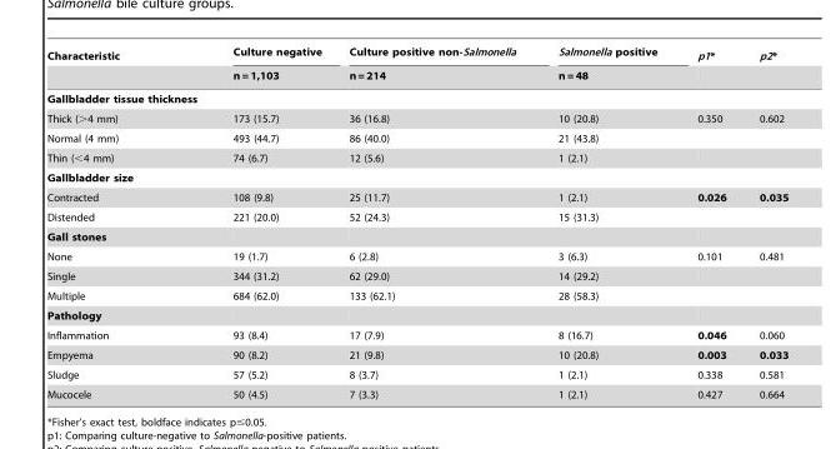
<table><thead><tr><td rowspan="2">Characteristic</td><td rowspan="2">Culture negative n = 1,103</td><td rowspan="2">Culture positive non-Salmonella n = 214</td><td rowspan="2">Salmonella positive n = 48</td><td rowspan="2">p1*</td><td rowspan="2">p2*</td></tr><tr></tr></thead><tbody><tr><td colspan="6">Gallbladder tissue thickness</td></tr><tr><td>Thick (&gt;4 mm)</td><td>173 (15.7)</td><td>36 (16.8)</td><td>10 (20.8)</td><td>0.350</td><td>0.602</td></tr><tr><td>Normal (4 mm)</td><td>493 (44.7)</td><td>86 (40.0)</td><td>21 (43.8)</td><td></td><td></td></tr><tr><td>Thin (&lt;4 mm)</td><td>74 (6.7)</td><td>12 (5.6)</td><td>1 (2.1)</td><td></td><td></td></tr><tr><td colspan="6">Gallbladder size</td></tr><tr><td>Contracted</td><td>108 (9.8)</td><td>25 (11.7)</td><td>1 (2.1)</td><td>0.026</td><td>0.035</td></tr><tr><td>Distended</td><td>221 (20.0)</td><td>52 (24.3)</td><td>15 (31.3)</td><td></td><td></td></tr><tr><td colspan="6">Gall stones</td></tr><tr><td>None</td><td>19 (1.7)</td><td>6 (2.8)</td><td>3 (6.3)</td><td>0.101</td><td>0.481</td></tr><tr><td>Single</td><td>344 (31.2)</td><td>62 (29.0)</td><td>14 (29.2)</td><td></td><td></td></tr><tr><td>Multiple</td><td>684 (62.0)</td><td>133 (62.1)</td><td>28 (58.3)</td><td></td><td></td></tr><tr><td colspan="6">Pathology</td></tr><tr><td>Inflammation</td><td>93 (8.4)</td><td>17 (7.9)</td><td>8 (16.7)</td><td>0.046</td><td>0.060</td></tr><tr><td>Empyema</td><td>90 (8.2)</td><td>21 (9.8)</td><td>10 (20.8)</td><td>0.003</td><td>0.033</td></tr><tr><td>Sludge</td><td>57 (5.2)</td><td>8 (3.7)</td><td>1 (2.1)</td><td>0.338</td><td>0.581</td></tr><tr><td>Mucocele</td><td>50 (4.5)</td><td>7 (3.3)</td><td>1 (2.1)</td><td>0.427</td><td>0.664</td></tr></tbody></table>